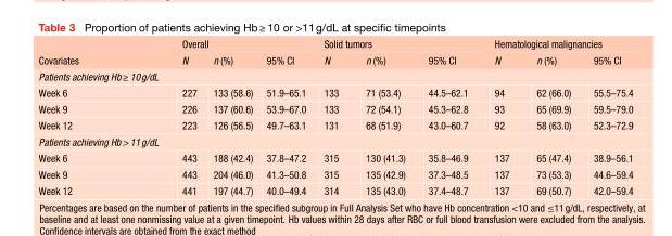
<table><thead><tr><td rowspan="2">Covariates</td><td colspan="3">Overall</td><td colspan="3">Solid tumors</td><td colspan="3">Hematological malignancies</td></tr><tr><td>N</td><td>n (%)</td><td>95% CI</td><td>N</td><td>n (%)</td><td>95% CI</td><td>N</td><td>n (%)</td><td>95% CI</td></tr></thead><tbody><tr><td colspan="10">Patients achieving Hb≥ 10g/dL</td></tr><tr><td>Week 6</td><td>227</td><td>133 (58.6)</td><td>51.9–65.1</td><td>133</td><td>71 (53.4)</td><td>44.5–62.1</td><td>94</td><td>62 (66.0)</td><td>55.5–75.4</td></tr><tr><td>Week 9</td><td>226</td><td>137 (60.6)</td><td>53.9–67.0</td><td>133</td><td>72 (54.1)</td><td>45.3–62.8</td><td>93</td><td>65 (69.9)</td><td>59.5–79.0</td></tr><tr><td>Week 12</td><td>223</td><td>126 (56.5)</td><td>49.7–63.1</td><td>131</td><td>68 (51.9)</td><td>43.0–60.7</td><td>92</td><td>58 (63.0)</td><td>52.3–72.9</td></tr><tr><td colspan="10">Patients achieving Hb&gt; 11g/dL</td></tr><tr><td>Week 6</td><td>443</td><td>188 (42.4)</td><td>37.8–47.2</td><td>315</td><td>130 (41.3)</td><td>35.8–46.9</td><td>137</td><td>65 (47.4)</td><td>38.9–56.1</td></tr><tr><td>Week 9</td><td>443</td><td>204 (46.0)</td><td>41.3–50.8</td><td>315</td><td>135 (42.9)</td><td>37.3–48.5</td><td>137</td><td>73 (53.3)</td><td>44.6–59.4</td></tr><tr><td>Week 12</td><td>441</td><td>197 (44.7)</td><td>40.0–49.4</td><td>314</td><td>135 (43.0)</td><td>37.4–48.7</td><td>137</td><td>69 (50.7)</td><td>42.0–59.4</td></tr></tbody></table>